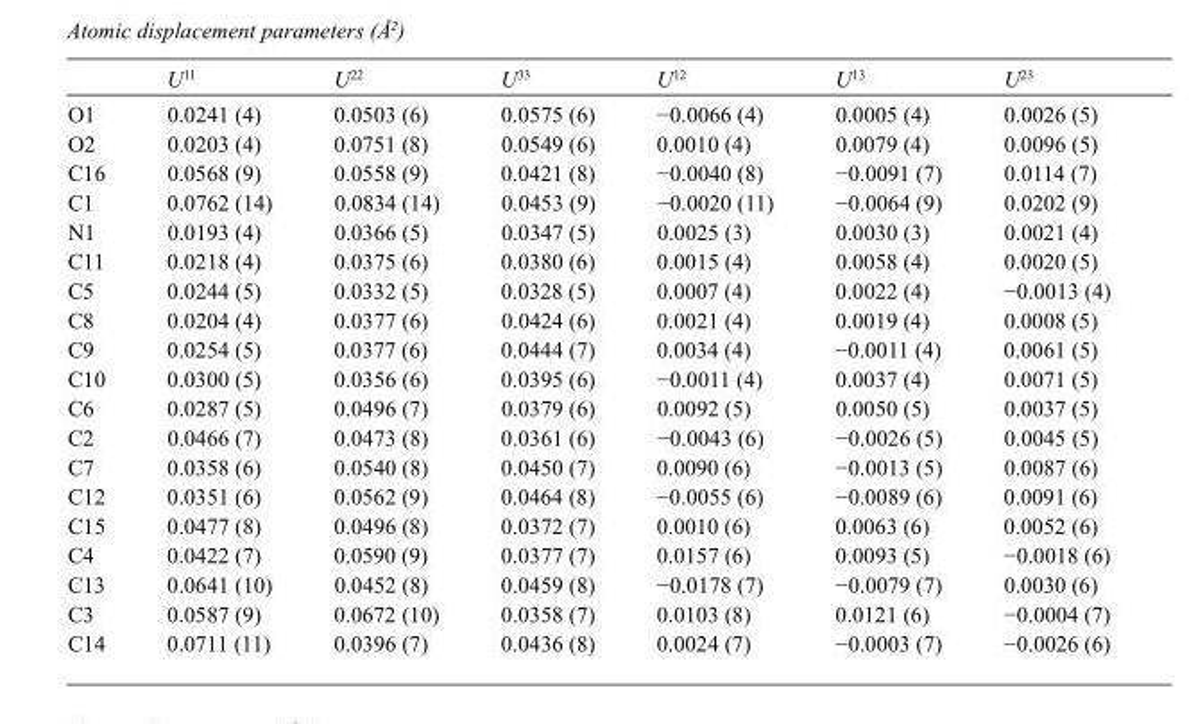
<table><thead><tr><td></td><td>U<sup>11</sup></td><td>U<sup>22</sup></td><td>U<sup>33</sup></td><td>U<sup>12</sup></td><td>U<sup>13</sup></td><td>U<sup>23</sup></td></tr></thead><tbody><tr><td>O1</td><td>0.0241 (4)</td><td>0.0503 (6)</td><td>0.0575 (6)</td><td>−0.0066 (4)</td><td>0.0005 (4)</td><td>0.0026 (5)</td></tr><tr><td>O2</td><td>0.0203 (4)</td><td>0.0751 (8)</td><td>0.0549 (6)</td><td>0.0010 (4)</td><td>0.0079 (4)</td><td>0.0096 (5)</td></tr><tr><td>C16</td><td>0.0568 (9)</td><td>0.0558 (9)</td><td>0.0421 (8)</td><td>−0.0040 (8)</td><td>−0.0091 (7)</td><td>0.0114 (7)</td></tr><tr><td>C1</td><td>0.0762 (14)</td><td>0.0834 (14)</td><td>0.0453 (9)</td><td>−0.0020 (11)</td><td>−0.0064 (9)</td><td>0.0202 (9)</td></tr><tr><td>N1</td><td>0.0193 (4)</td><td>0.0366 (5)</td><td>0.0347 (5)</td><td>0.0025 (3)</td><td>0.0030 (3)</td><td>0.0021 (4)</td></tr><tr><td>C11</td><td>0.0218 (4)</td><td>0.0375 (6)</td><td>0.0380 (6)</td><td>0.0015 (4)</td><td>0.0058 (4)</td><td>0.0020 (5)</td></tr><tr><td>C5</td><td>0.0244 (5)</td><td>0.0332 (5)</td><td>0.0328 (5)</td><td>0.0007 (4)</td><td>0.0022 (4)</td><td>−0.0013 (4)</td></tr><tr><td>C8</td><td>0.0204 (4)</td><td>0.0377 (6)</td><td>0.0424 (6)</td><td>0.0021 (4)</td><td>0.0019 (4)</td><td>0.0008 (5)</td></tr><tr><td>C9</td><td>0.0254 (5)</td><td>0.0377 (6)</td><td>0.0444 (7)</td><td>0.0034 (4)</td><td>−0.0011 (4)</td><td>0.0061 (5)</td></tr><tr><td>C10</td><td>0.0300 (5)</td><td>0.0356 (6)</td><td>0.0395 (6)</td><td>−0.0011 (4)</td><td>0.0037 (4)</td><td>0.0071 (5)</td></tr><tr><td>C6</td><td>0.0287 (5)</td><td>0.0496 (7)</td><td>0.0379 (6)</td><td>0.0092 (5)</td><td>0.0050 (5)</td><td>0.0037 (5)</td></tr><tr><td>C2</td><td>0.0466 (7)</td><td>0.0473 (8)</td><td>0.0361 (6)</td><td>−0.0043 (6)</td><td>−0.0026 (5)</td><td>0.0045 (5)</td></tr><tr><td>C7</td><td>0.0358 (6)</td><td>0.0540 (8)</td><td>0.0450 (7)</td><td>0.0090 (6)</td><td>−0.0013 (5)</td><td>0.0087 (6)</td></tr><tr><td>C12</td><td>0.0351 (6)</td><td>0.0562 (9)</td><td>0.0464 (8)</td><td>−0.0055 (6)</td><td>−0.0089 (6)</td><td>0.0091 (6)</td></tr><tr><td>C15</td><td>0.0477 (8)</td><td>0.0496 (8)</td><td>0.0372 (7)</td><td>0.0010 (6)</td><td>0.0063 (6)</td><td>0.0052 (6)</td></tr><tr><td>C4</td><td>0.0422 (7)</td><td>0.0590 (9)</td><td>0.0377 (7)</td><td>0.0157 (6)</td><td>0.0093 (5)</td><td>−0.0018 (6)</td></tr><tr><td>C13</td><td>0.0641 (10)</td><td>0.0452 (8)</td><td>0.0459 (8)</td><td>−0.0178 (7)</td><td>−0.0079 (7)</td><td>0.0030 (6)</td></tr><tr><td>C3</td><td>0.0587 (9)</td><td>0.0672 (10)</td><td>0.0358 (7)</td><td>0.0103 (8)</td><td>0.0121 (6)</td><td>−0.0004 (7)</td></tr><tr><td>C14</td><td>0.0711 (11)</td><td>0.0396 (7)</td><td>0.0436 (8)</td><td>0.0024 (7)</td><td>−0.0003 (7)</td><td>−0.0026 (6)</td></tr></tbody></table>